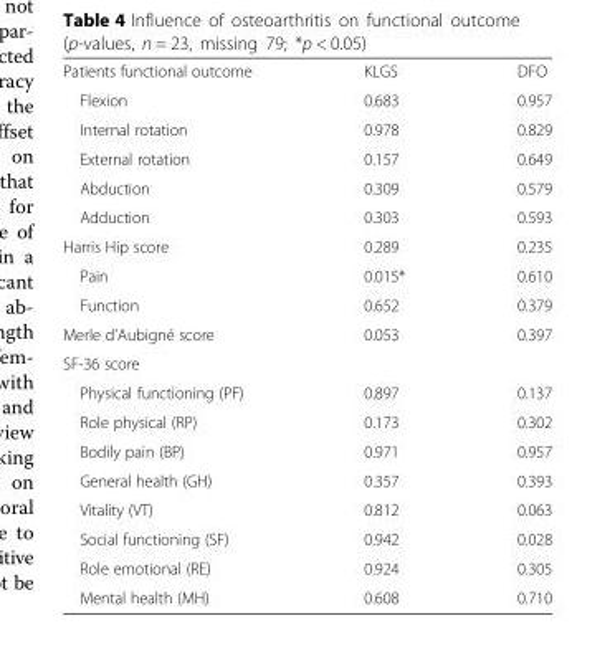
<table><tbody><tr><td>Patients functional outcome</td><td>KLGS</td><td>DFO</td></tr><tr><td>Flexion</td><td>0.683</td><td>0.957</td></tr><tr><td>Internal rotation</td><td>0.978</td><td>0.829</td></tr><tr><td>External rotation</td><td>0.157</td><td>0.649</td></tr><tr><td>Abduction</td><td>0.309</td><td>0.579</td></tr><tr><td>Adduction</td><td>0.303</td><td>0.593</td></tr><tr><td>Harris Hip score</td><td>0.289</td><td>0.235</td></tr><tr><td>Pain</td><td>0.015*</td><td>0.610</td></tr><tr><td>Function</td><td>0.652</td><td>0.379</td></tr><tr><td>Merle d&#x27;Aubigné score</td><td>0.053</td><td>0.397</td></tr><tr><td colspan="3">SF-36 score</td></tr><tr><td>Physical functioning (PF)</td><td>0.897</td><td>0.137</td></tr><tr><td>Role physical (RP)</td><td>0.173</td><td>0.302</td></tr><tr><td>Bodily pain (BP)</td><td>0.971</td><td>0.957</td></tr><tr><td>General health (GH)</td><td>0.357</td><td>0.393</td></tr><tr><td>Vitality (VT)</td><td>0.812</td><td>0.063</td></tr><tr><td>Social functioning (SF)</td><td>0.942</td><td>0.028</td></tr><tr><td>Role emotional (RE)</td><td>0.924</td><td>0.305</td></tr><tr><td>Mental health (MH)</td><td>0.608</td><td>0.710</td></tr></tbody></table>